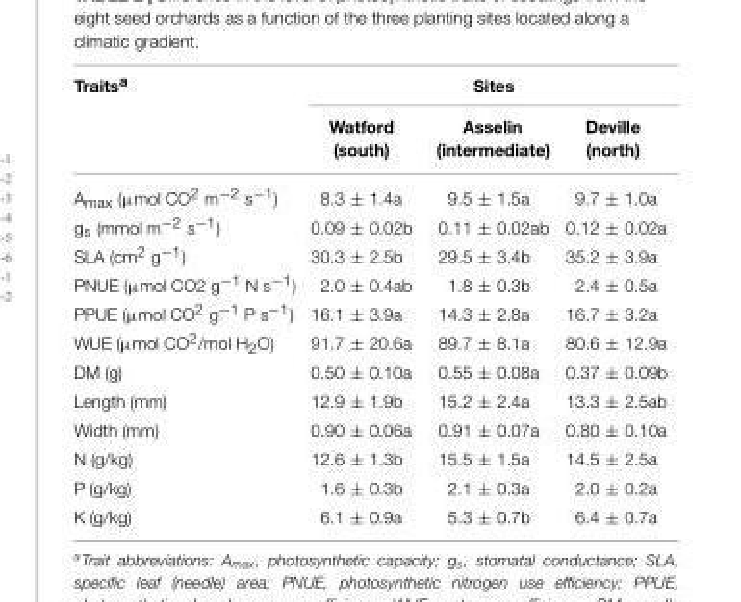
<table><thead><tr><td rowspan="2">Traits<sup>a</sup></td><td colspan="3">Sites</td></tr><tr><td>Watford (south)</td><td>Asselin (intermediate)</td><td>Deville (north)</td></tr></thead><tbody><tr><td>A<sub>max</sub> (µmol CO<sup>2</sup> m<sup>−2</sup> s<sup>−1</sup>)</td><td>8.3 ± 1.4a</td><td>9.5 ± 1.5a</td><td>9.7 ± 1.0a</td></tr><tr><td>g<sub>s</sub> (mmol m<sup>−2</sup> s<sup>−1</sup>)</td><td>0.09 ± 0.02b</td><td>0.11 ± 0.02ab</td><td>0.12 ± 0.02a</td></tr><tr><td>SLA (cm<sup>2</sup> g<sup>−1</sup>)</td><td>30.3 ± 2.5b</td><td>29.5 ± 3.4b</td><td>35.2 ± 3.9a</td></tr><tr><td>PNUE (µmol CO2 g<sup>−1</sup> N s<sup>−1</sup>)</td><td>2.0 ± 0.4ab</td><td>1.8 ± 0.3b</td><td>2.4 ± 0.5a</td></tr><tr><td>PPUE (µmol CO<sup>2</sup> g<sup>−1</sup> P s<sup>−1</sup>)</td><td>16.1 ± 3.9a</td><td>14.3 ± 2.8a</td><td>16.7 ± 3.2a</td></tr><tr><td>WUE (µmol CO<sup>2</sup>/mol H<sub>2</sub>O)</td><td>91.7 ± 20.6a</td><td>89.7 ± 8.1a</td><td>80.6 ± 12.9a</td></tr><tr><td>DM (g)</td><td>0.50 ± 0.10a</td><td>0.55 ± 0.08a</td><td>0.37 ± 0.09b</td></tr><tr><td>Length (mm)</td><td>12.9 ± 1.9b</td><td>15.2 ± 2.4a</td><td>13.3 ± 2.5ab</td></tr><tr><td>Width (mm)</td><td>0.90 ± 0.06a</td><td>0.91 ± 0.07a</td><td>0.80 ± 0.10a</td></tr><tr><td>N (g/kg)</td><td>12.6 ± 1.3b</td><td>15.5 ± 1.5a</td><td>14.5 ± 2.5a</td></tr><tr><td>P (g/kg)</td><td>1.6 ± 0.3b</td><td>2.1 ± 0.3a</td><td>2.0 ± 0.2a</td></tr><tr><td>K (g/kg)</td><td>6.1 ± 0.9a</td><td>5.3 ± 0.7b</td><td>6.4 ± 0.7a</td></tr></tbody></table>